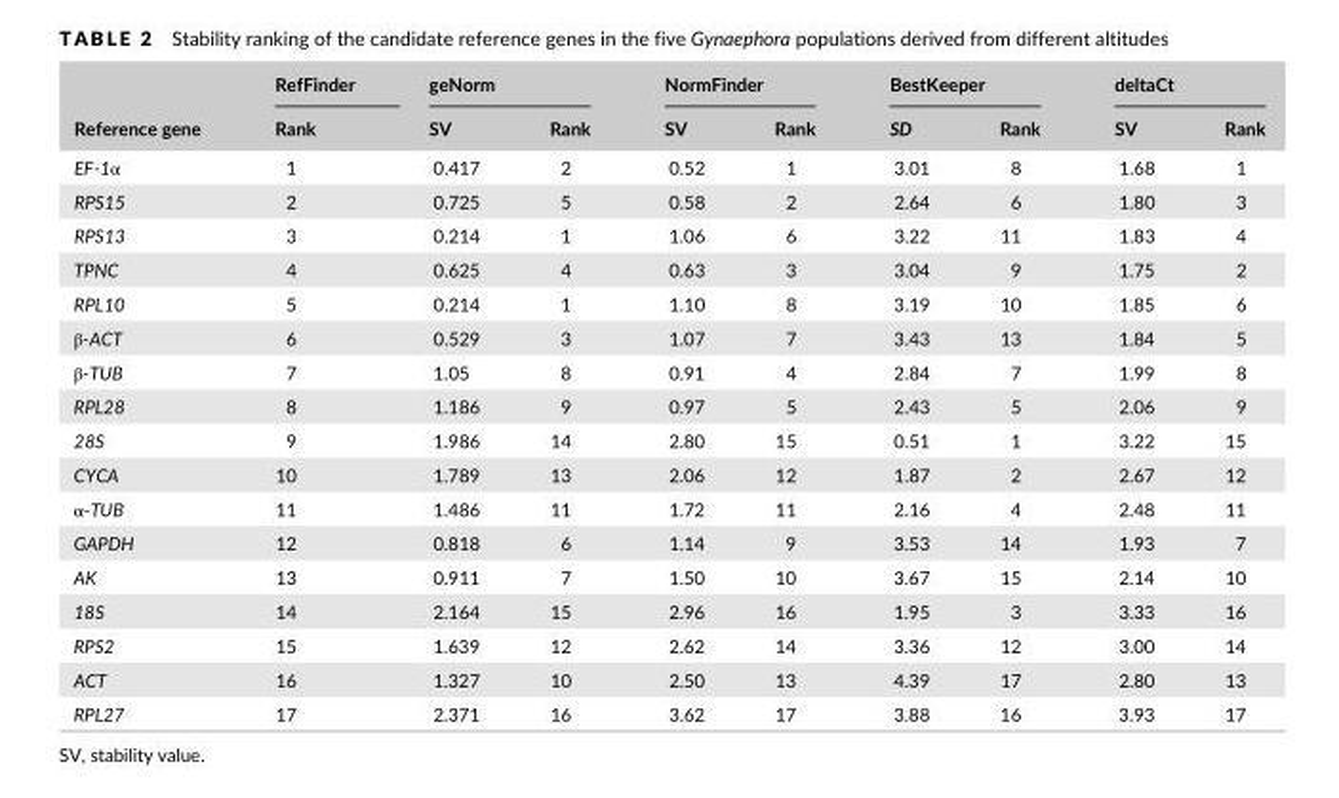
<table><thead><tr><td rowspan="2">Reference gene</td><td rowspan="2">RefFinder Rank</td><td colspan="2">geNorm</td><td colspan="2">NormFinder</td><td colspan="2">BestKeeper</td><td colspan="2">deltaCt</td></tr><tr><td>SV</td><td>Rank</td><td>SV</td><td>Rank</td><td>SD</td><td>Rank</td><td>SV</td><td>Rank</td></tr></thead><tbody><tr><td>EF-1α</td><td>1</td><td>0.417</td><td>2</td><td>0.52</td><td>1</td><td>3.01</td><td>8</td><td>1.68</td><td>1</td></tr><tr><td>RPS15</td><td>2</td><td>0.725</td><td>5</td><td>0.58</td><td>2</td><td>2.64</td><td>6</td><td>1.80</td><td>3</td></tr><tr><td>RPS13</td><td>3</td><td>0.214</td><td>1</td><td>1.06</td><td>6</td><td>3.22</td><td>11</td><td>1.83</td><td>4</td></tr><tr><td>TPNC</td><td>4</td><td>0.625</td><td>4</td><td>0.63</td><td>3</td><td>3.04</td><td>9</td><td>1.75</td><td>2</td></tr><tr><td>RPL10</td><td>5</td><td>0.214</td><td>1</td><td>1.10</td><td>8</td><td>3.19</td><td>10</td><td>1.85</td><td>6</td></tr><tr><td>β-ACT</td><td>6</td><td>0.529</td><td>3</td><td>1.07</td><td>7</td><td>3.43</td><td>13</td><td>1.84</td><td>5</td></tr><tr><td>β-TUB</td><td>7</td><td>1.05</td><td>8</td><td>0.91</td><td>4</td><td>2.84</td><td>7</td><td>1.99</td><td>8</td></tr><tr><td>RPL28</td><td>8</td><td>1.186</td><td>9</td><td>0.97</td><td>5</td><td>2.43</td><td>5</td><td>2.06</td><td>9</td></tr><tr><td>28S</td><td>9</td><td>1.986</td><td>14</td><td>2.80</td><td>15</td><td>0.51</td><td>1</td><td>3.22</td><td>15</td></tr><tr><td>CYCA</td><td>10</td><td>1.789</td><td>13</td><td>2.06</td><td>12</td><td>1.87</td><td>2</td><td>2.67</td><td>12</td></tr><tr><td>α-TUB</td><td>11</td><td>1.486</td><td>11</td><td>1.72</td><td>11</td><td>2.16</td><td>4</td><td>2.48</td><td>11</td></tr><tr><td>GAPDH</td><td>12</td><td>0.818</td><td>6</td><td>1.14</td><td>9</td><td>3.53</td><td>14</td><td>1.93</td><td>7</td></tr><tr><td>AK</td><td>13</td><td>0.911</td><td>7</td><td>1.50</td><td>10</td><td>3.67</td><td>15</td><td>2.14</td><td>10</td></tr><tr><td>18S</td><td>14</td><td>2.164</td><td>15</td><td>2.96</td><td>16</td><td>1.95</td><td>3</td><td>3.33</td><td>16</td></tr><tr><td>RPS2</td><td>15</td><td>1.639</td><td>12</td><td>2.62</td><td>14</td><td>3.36</td><td>12</td><td>3.00</td><td>14</td></tr><tr><td>ACT</td><td>16</td><td>1.327</td><td>10</td><td>2.50</td><td>13</td><td>4.39</td><td>17</td><td>2.80</td><td>13</td></tr><tr><td>RPL27</td><td>17</td><td>2.371</td><td>16</td><td>3.62</td><td>17</td><td>3.88</td><td>16</td><td>3.93</td><td>17</td></tr></tbody></table>